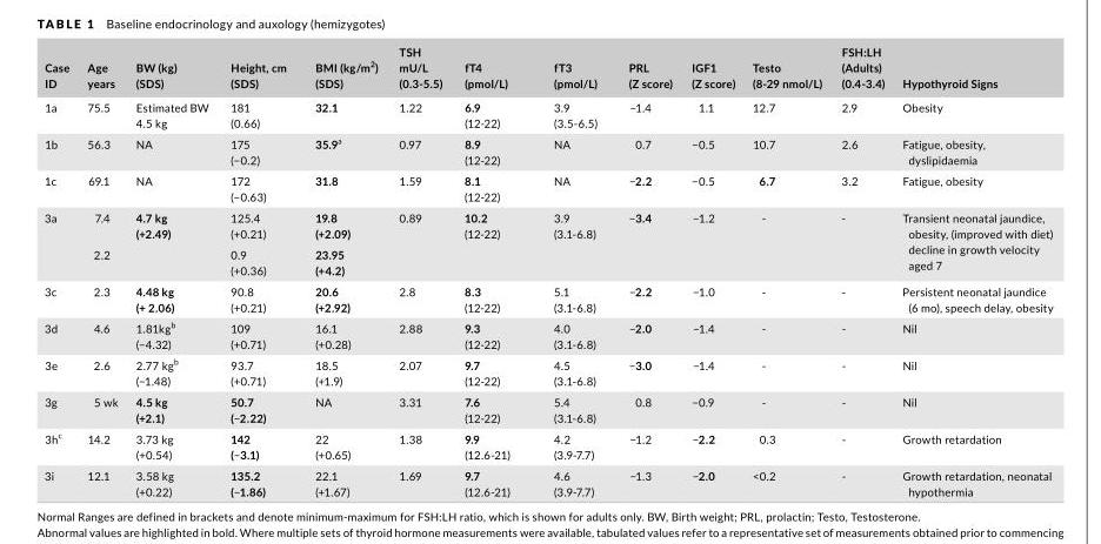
<table><thead><tr><td>Case ID</td><td>Age years</td><td>BW (kg) (SDS)</td><td>Height, cm (SDS)</td><td>BMI (kg/m<sup>2</sup>) (SDS)</td><td>TSH mU/L (0.3- 5.5)</td><td>fT4 (pmol/L)</td><td>fT3 (pmol/L)</td><td>PRL (Z score)</td><td>IGF1 (Z score)</td><td>Testo (8- 29 nmol/L)</td><td>FSH:LH (Adults) (0.4- 3.4)</td><td>Hypothyroid Signs</td></tr></thead><tbody><tr><td>1a</td><td>75.5</td><td>Estimated BW 4.5 kg</td><td>181 (0.66)</td><td>32.1</td><td>1.22</td><td>6.9 (12- 22)</td><td>3.9 (3.5- 6.5)</td><td>−1.4</td><td>1.1</td><td>12.7</td><td>2.9</td><td>Obesity</td></tr><tr><td>1b</td><td>56.3</td><td>NA</td><td>175 (−0.2)</td><td>35.9a</td><td>0.97</td><td>8.9 (12- 22)</td><td>NA</td><td>0.7</td><td>−0.5</td><td>10.7</td><td>2.6</td><td>Fatigue, obesity, dyslipidaemia</td></tr><tr><td>1c</td><td>69.1</td><td>NA</td><td>172 (−0.63)</td><td>31.8</td><td>1.59</td><td>8.1 (12- 22)</td><td>NA</td><td>−2.2</td><td>−0.5</td><td>6.7</td><td>3.2</td><td>Fatigue, obesity</td></tr><tr><td rowspan="2">3a</td><td>7.4</td><td rowspan="2">4.7 kg (+2.49)</td><td>125.4 (+0.21)</td><td>19.8 (+2.09)</td><td rowspan="2">0.89</td><td rowspan="2">10.2 (12- 22)</td><td rowspan="2">3.9 (3.1- 6.8)</td><td rowspan="2">−3.4</td><td rowspan="2">−1.2</td><td rowspan="2">-</td><td rowspan="2">-</td><td rowspan="2">Transient neonatal jaundice, obesity, (improved with diet) decline in growth velocity aged 7</td></tr><tr><td>2.2</td><td>0.9 (+0.36)</td><td>23.95 (+4.2)</td></tr><tr><td>3c</td><td>2.3</td><td>4.48 kg (+ 2.06)</td><td>90.8 (+0.21)</td><td>20.6 (+2.92)</td><td>2.8</td><td>8.3 (12- 22)</td><td>5.1 (3.1- 6.8)</td><td>−2.2</td><td>−1.0</td><td>-</td><td>-</td><td>Persistent neonatal jaundice (6 mo), speech delay, obesity</td></tr><tr><td>3d</td><td>4.6</td><td>1.81kg<sup>b</sup> (−4.32)</td><td>109 (+0.71)</td><td>16.1 (+0.28)</td><td>2.88</td><td>9.3 (12- 22)</td><td>4.0 (3.1- 6.8)</td><td>−2.0</td><td>−1.4</td><td>-</td><td>-</td><td>Nil</td></tr><tr><td>3e</td><td>2.6</td><td>2.77 kg<sup>b</sup> (−1.48)</td><td>93.7 (+0.71)</td><td>18.5 (+1.9)</td><td>2.07</td><td>9.7 (12- 22)</td><td>4.5 (3.1- 6.8)</td><td>−3.0</td><td>−1.4</td><td>-</td><td>-</td><td>Nil</td></tr><tr><td>3g</td><td>5 wk</td><td>4.5 kg (+2.1)</td><td>50.7 (−2.22)</td><td>NA</td><td>3.31</td><td>7.6 (12- 22)</td><td>5.4 (3.1- 6.8)</td><td>0.8</td><td>−0.9</td><td>-</td><td>-</td><td>Nil</td></tr><tr><td>3h<sup>c</sup></td><td>14.2</td><td>3.73 kg (+0.54)</td><td>142 (−3.1)</td><td>22 (+0.65)</td><td>1.38</td><td>9.9 (12.6- 21)</td><td>4.2 (3.9- 7.7)</td><td>−1.2</td><td>−2.2</td><td>0.3</td><td>-</td><td>Growth retardation</td></tr><tr><td>3i</td><td>12.1</td><td>3.58 kg (+0.22)</td><td>135.2 (−1.86)</td><td>22.1 (+1.67)</td><td>1.69</td><td>9.7 (12.6- 21)</td><td>4.6 (3.9- 7.7)</td><td>−1.3</td><td>−2.0</td><td>&lt;0.2</td><td>-</td><td>Growth retardation, neonatal hypothermia</td></tr></tbody></table>